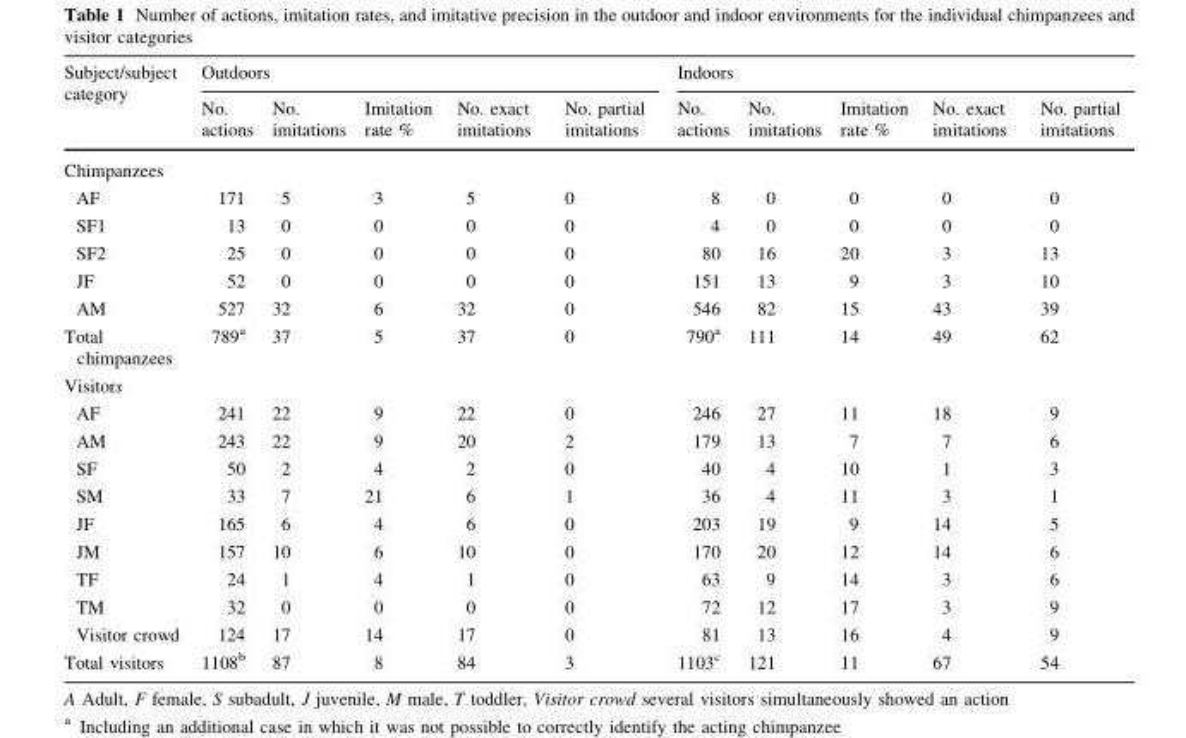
<table><thead><tr><td rowspan="2">Subject/subject category</td><td colspan="5">Outdoors</td><td colspan="5">Indoors</td></tr><tr><td>No. actions</td><td>No. imitations</td><td>Imitation rate %</td><td>No. exact imitations</td><td>No. partial imitations</td><td>No. actions</td><td>No. imitations</td><td>Imitation rate %</td><td>No. exact imitations</td><td>No. partial imitations</td></tr></thead><tbody><tr><td colspan="11">Chimpanzees</td></tr><tr><td>AF</td><td>171</td><td>5</td><td>3</td><td>5</td><td>0</td><td>8</td><td>0</td><td>0</td><td>0</td><td>0</td></tr><tr><td>SF1</td><td>13</td><td>0</td><td>0</td><td>0</td><td>0</td><td>4</td><td>0</td><td>0</td><td>0</td><td>0</td></tr><tr><td>SF2</td><td>25</td><td>0</td><td>0</td><td>0</td><td>0</td><td>80</td><td>16</td><td>20</td><td>3</td><td>13</td></tr><tr><td>JF</td><td>52</td><td>0</td><td>0</td><td>0</td><td>0</td><td>151</td><td>13</td><td>9</td><td>3</td><td>10</td></tr><tr><td>AM</td><td>527</td><td>32</td><td>6</td><td>32</td><td>0</td><td>546</td><td>82</td><td>15</td><td>43</td><td>39</td></tr><tr><td>Total chimpanzees</td><td>789<sup>a</sup></td><td>37</td><td>5</td><td>37</td><td>0</td><td>790<sup>a</sup></td><td>111</td><td>14</td><td>49</td><td>62</td></tr><tr><td colspan="11">Visitors</td></tr><tr><td>AF</td><td>241</td><td>22</td><td>9</td><td>22</td><td>0</td><td>246</td><td>27</td><td>11</td><td>18</td><td>9</td></tr><tr><td>AM</td><td>243</td><td>22</td><td>9</td><td>20</td><td>2</td><td>179</td><td>13</td><td>7</td><td>7</td><td>6</td></tr><tr><td>SF</td><td>50</td><td>2</td><td>4</td><td>2</td><td>0</td><td>40</td><td>4</td><td>10</td><td>1</td><td>3</td></tr><tr><td>SM</td><td>33</td><td>7</td><td>21</td><td>6</td><td>1</td><td>36</td><td>4</td><td>11</td><td>3</td><td>1</td></tr><tr><td>JF</td><td>165</td><td>6</td><td>4</td><td>6</td><td>0</td><td>203</td><td>19</td><td>9</td><td>14</td><td>5</td></tr><tr><td>JM</td><td>157</td><td>10</td><td>6</td><td>10</td><td>0</td><td>170</td><td>20</td><td>12</td><td>14</td><td>6</td></tr><tr><td>TF</td><td>24</td><td>1</td><td>4</td><td>1</td><td>0</td><td>63</td><td>9</td><td>14</td><td>3</td><td>6</td></tr><tr><td>TM</td><td>32</td><td>0</td><td>0</td><td>0</td><td>0</td><td>72</td><td>12</td><td>17</td><td>3</td><td>9</td></tr><tr><td>Visitor crowd</td><td>124</td><td>17</td><td>14</td><td>17</td><td>0</td><td>81</td><td>13</td><td>16</td><td>4</td><td>9</td></tr><tr><td>Total visitors</td><td>1108<sup>b</sup></td><td>87</td><td>8</td><td>84</td><td>3</td><td>1103<sup>c</sup></td><td>121</td><td>11</td><td>67</td><td>54</td></tr></tbody></table>